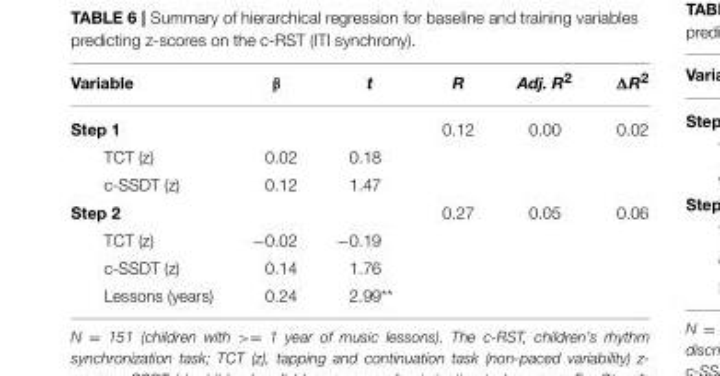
<table><thead><tr><td>Variable</td><td>β</td><td>t</td><td>R</td><td>Adj. R<sup>2</sup></td><td>ΔR<sup>2</sup></td></tr></thead><tbody><tr><td>Step 1</td><td></td><td></td><td>0.12</td><td>0.00</td><td>0.02</td></tr><tr><td>TCT (z)</td><td>0.02</td><td>0.18</td><td></td><td></td><td></td></tr><tr><td>c-SSDT (z)</td><td>0.12</td><td>1.47</td><td></td><td></td><td></td></tr><tr><td>Step 2</td><td></td><td></td><td>0.27</td><td>0.05</td><td>0.06</td></tr><tr><td>TCT (z)</td><td>−0.02</td><td>−0.19</td><td></td><td></td><td></td></tr><tr><td>c-SSDT (z)</td><td>0.14</td><td>1.76</td><td></td><td></td><td></td></tr><tr><td>Lessons (years)</td><td>0.24</td><td>2.99**</td><td></td><td></td><td></td></tr></tbody></table>